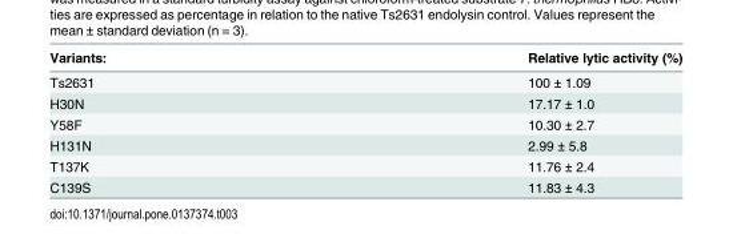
<table><thead><tr><td>Variants:</td><td>Relative lytic activity (%)</td></tr></thead><tbody><tr><td>Ts2631</td><td>100 ± 1.09</td></tr><tr><td>H30N</td><td>17.17 ± 1.0</td></tr><tr><td>Y58F</td><td>10.30 ± 2.7</td></tr><tr><td>H131N</td><td>2.99 ± 5.8</td></tr><tr><td>T137K</td><td>11.76 ± 2.4</td></tr><tr><td>C139S</td><td>11.83 ± 4.3</td></tr></tbody></table>